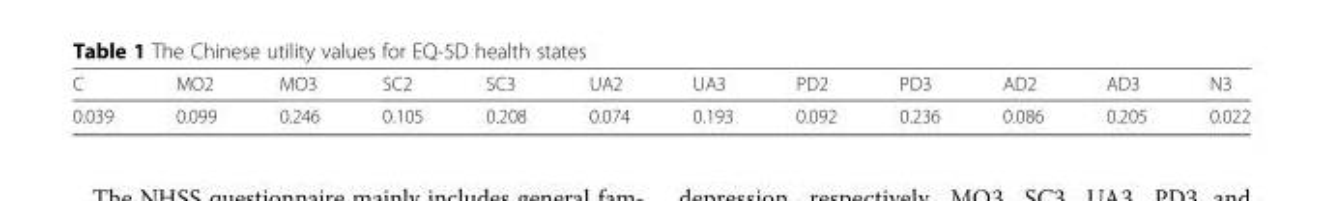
<table><thead><tr><td>C</td><td>MO2</td><td>MO3</td><td>SC2</td><td>SC3</td><td>UA2</td><td>UA3</td><td>PD2</td><td>PD3</td><td>AD2</td><td>AD3</td><td>N3</td></tr></thead><tbody><tr><td>0.039</td><td>0.099</td><td>0.246</td><td>0.105</td><td>0.208</td><td>0.074</td><td>0.193</td><td>0.092</td><td>0.236</td><td>0.086</td><td>0.205</td><td>0.022</td></tr></tbody></table>